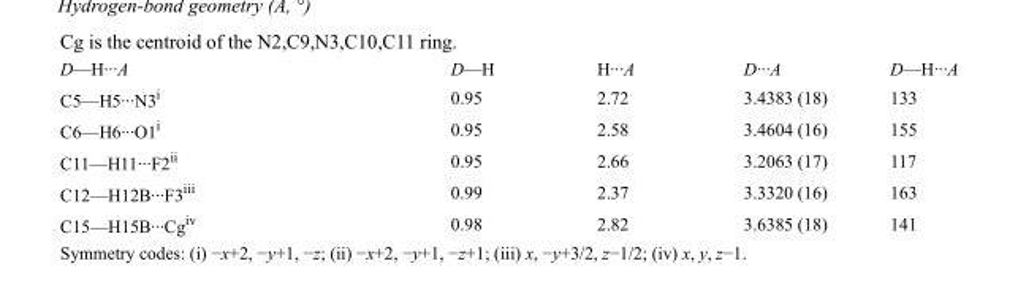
<table><tbody><tr><td>D—H···A</td><td>D—H</td><td>H···A</td><td>D···A</td><td>D—H···A</td></tr><tr><td>C5—H5···N3<sup>i</sup></td><td>0.95</td><td>2.72</td><td>3.4383 (18)</td><td>133</td></tr><tr><td>C6—H6···O1<sup>i</sup></td><td>0.95</td><td>2.58</td><td>3.4604 (16)</td><td>155</td></tr><tr><td>C11—H11···F2<sup>ii</sup></td><td>0.95</td><td>2.66</td><td>3.2063 (17)</td><td>117</td></tr><tr><td>C12—H12B···F3<sup>iii</sup></td><td>0.99</td><td>2.37</td><td>3.3320 (16)</td><td>163</td></tr><tr><td>C15—H15B···Cg<sup>iv</sup></td><td>0.98</td><td>2.82</td><td>3.6385 (18)</td><td>141</td></tr></tbody></table>